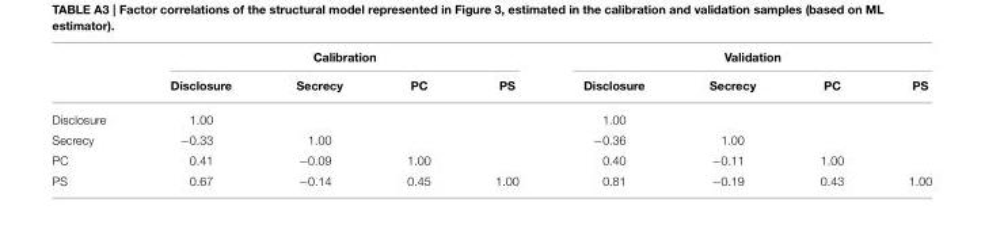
<table><thead><tr><td rowspan="2"></td><td colspan="4">Calibration</td><td colspan="4">Validation</td></tr><tr><td>Disclosure</td><td>Secrecy</td><td>PC</td><td>PS</td><td>Disclosure</td><td>Secrecy</td><td>PC</td><td>PS</td></tr></thead><tbody><tr><td>Disclosure</td><td>1.00</td><td></td><td></td><td></td><td>1.00</td><td></td><td></td><td></td></tr><tr><td>Secrecy</td><td>−0.33</td><td>1.00</td><td></td><td></td><td>−0.36</td><td>1.00</td><td></td><td></td></tr><tr><td>PC</td><td>0.41</td><td>−0.09</td><td>1.00</td><td></td><td>0.40</td><td>−0.11</td><td>1.00</td><td></td></tr><tr><td>PS</td><td>0.67</td><td>−0.14</td><td>0.45</td><td>1.00</td><td>0.81</td><td>−0.19</td><td>0.43</td><td>1.00</td></tr></tbody></table>